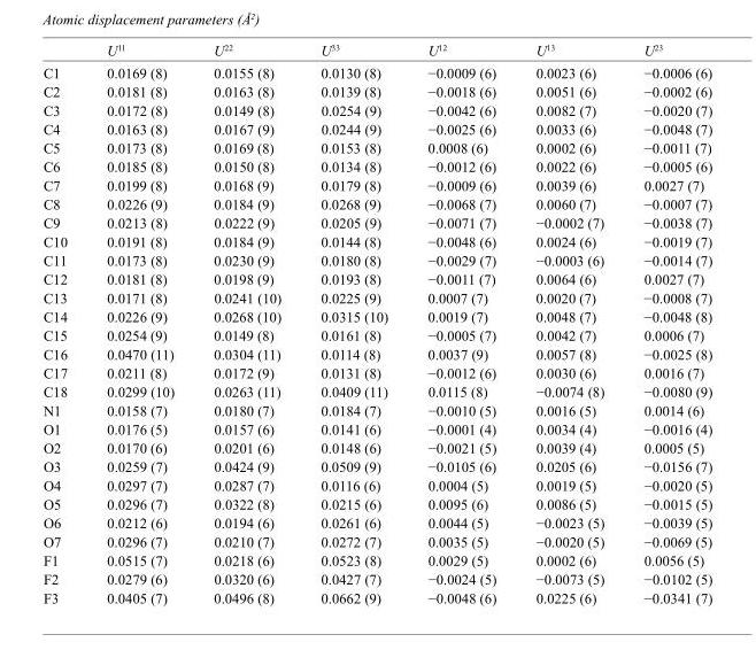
<table><thead><tr><td></td><td>U<sup>11</sup></td><td>U<sup>22</sup></td><td>U<sup>33</sup></td><td>U<sup>12</sup></td><td>U<sup>13</sup></td><td>U<sup>23</sup></td></tr></thead><tbody><tr><td>C1</td><td>0.0169 (8)</td><td>0.0155 (8)</td><td>0.0130 (8)</td><td>−0.0009 (6)</td><td>0.0023 (6)</td><td>−0.0006 (6)</td></tr><tr><td>C2</td><td>0.0181 (8)</td><td>0.0163 (8)</td><td>0.0139 (8)</td><td>−0.0018 (6)</td><td>0.0051 (6)</td><td>−0.0002 (6)</td></tr><tr><td>C3</td><td>0.0172 (8)</td><td>0.0149 (8)</td><td>0.0254 (9)</td><td>−0.0042 (6)</td><td>0.0082 (7)</td><td>−0.0020 (7)</td></tr><tr><td>C4</td><td>0.0163 (8)</td><td>0.0167 (9)</td><td>0.0244 (9)</td><td>−0.0025 (6)</td><td>0.0033 (6)</td><td>−0.0048 (7)</td></tr><tr><td>C5</td><td>0.0173 (8)</td><td>0.0169 (8)</td><td>0.0153 (8)</td><td>0.0008 (6)</td><td>0.0002 (6)</td><td>−0.0011 (7)</td></tr><tr><td>C6</td><td>0.0185 (8)</td><td>0.0150 (8)</td><td>0.0134 (8)</td><td>−0.0012 (6)</td><td>0.0022 (6)</td><td>−0.0005 (6)</td></tr><tr><td>C7</td><td>0.0199 (8)</td><td>0.0168 (9)</td><td>0.0179 (8)</td><td>−0.0009 (6)</td><td>0.0039 (6)</td><td>0.0027 (7)</td></tr><tr><td>C8</td><td>0.0226 (9)</td><td>0.0184 (9)</td><td>0.0268 (9)</td><td>−0.0068 (7)</td><td>0.0060 (7)</td><td>−0.0007 (7)</td></tr><tr><td>C9</td><td>0.0213 (8)</td><td>0.0222 (9)</td><td>0.0205 (9)</td><td>−0.0071 (7)</td><td>−0.0002 (7)</td><td>−0.0038 (7)</td></tr><tr><td>C10</td><td>0.0191 (8)</td><td>0.0184 (9)</td><td>0.0144 (8)</td><td>−0.0048 (6)</td><td>0.0024 (6)</td><td>−0.0019 (7)</td></tr><tr><td>C11</td><td>0.0173 (8)</td><td>0.0230 (9)</td><td>0.0180 (8)</td><td>−0.0029 (7)</td><td>−0.0003 (6)</td><td>−0.0014 (7)</td></tr><tr><td>C12</td><td>0.0181 (8)</td><td>0.0198 (9)</td><td>0.0193 (8)</td><td>−0.0011 (7)</td><td>0.0064 (6)</td><td>0.0027 (7)</td></tr><tr><td>C13</td><td>0.0171 (8)</td><td>0.0241 (10)</td><td>0.0225 (9)</td><td>0.0007 (7)</td><td>0.0020 (7)</td><td>−0.0008 (7)</td></tr><tr><td>C14</td><td>0.0226 (9)</td><td>0.0268 (10)</td><td>0.0315 (10)</td><td>0.0019 (7)</td><td>0.0048 (7)</td><td>−0.0048 (8)</td></tr><tr><td>C15</td><td>0.0254 (9)</td><td>0.0149 (8)</td><td>0.0161 (8)</td><td>−0.0005 (7)</td><td>0.0042 (7)</td><td>0.0006 (7)</td></tr><tr><td>C16</td><td>0.0470 (11)</td><td>0.0304 (11)</td><td>0.0114 (8)</td><td>0.0037 (9)</td><td>0.0057 (8)</td><td>−0.0025 (8)</td></tr><tr><td>C17</td><td>0.0211 (8)</td><td>0.0172 (9)</td><td>0.0131 (8)</td><td>−0.0012 (6)</td><td>0.0030 (6)</td><td>0.0016 (7)</td></tr><tr><td>C18</td><td>0.0299 (10)</td><td>0.0263 (11)</td><td>0.0409 (11)</td><td>0.0115 (8)</td><td>−0.0074 (8)</td><td>−0.0080 (9)</td></tr><tr><td>N1</td><td>0.0158 (7)</td><td>0.0180 (7)</td><td>0.0184 (7)</td><td>−0.0010 (5)</td><td>0.0016 (5)</td><td>0.0014 (6)</td></tr><tr><td>O1</td><td>0.0176 (5)</td><td>0.0157 (6)</td><td>0.0141 (6)</td><td>−0.0001 (4)</td><td>0.0034 (4)</td><td>−0.0016 (4)</td></tr><tr><td>O2</td><td>0.0170 (6)</td><td>0.0201 (6)</td><td>0.0148 (6)</td><td>−0.0021 (5)</td><td>0.0039 (4)</td><td>0.0005 (5)</td></tr><tr><td>O3</td><td>0.0259 (7)</td><td>0.0424 (9)</td><td>0.0509 (9)</td><td>−0.0105 (6)</td><td>0.0205 (6)</td><td>−0.0156 (7)</td></tr><tr><td>O4</td><td>0.0297 (7)</td><td>0.0287 (7)</td><td>0.0116 (6)</td><td>0.0004 (5)</td><td>0.0019 (5)</td><td>−0.0020 (5)</td></tr><tr><td>O5</td><td>0.0296 (7)</td><td>0.0322 (8)</td><td>0.0215 (6)</td><td>0.0095 (6)</td><td>0.0086 (5)</td><td>−0.0015 (5)</td></tr><tr><td>O6</td><td>0.0212 (6)</td><td>0.0194 (6)</td><td>0.0261 (6)</td><td>0.0044 (5)</td><td>−0.0023 (5)</td><td>−0.0039 (5)</td></tr><tr><td>O7</td><td>0.0296 (7)</td><td>0.0210 (7)</td><td>0.0272 (7)</td><td>0.0035 (5)</td><td>−0.0020 (5)</td><td>−0.0069 (5)</td></tr><tr><td>F1</td><td>0.0515 (7)</td><td>0.0218 (6)</td><td>0.0523 (8)</td><td>0.0029 (5)</td><td>0.0002 (6)</td><td>0.0056 (5)</td></tr><tr><td>F2</td><td>0.0279 (6)</td><td>0.0320 (6)</td><td>0.0427 (7)</td><td>−0.0024 (5)</td><td>−0.0073 (5)</td><td>−0.0102 (5)</td></tr><tr><td>F3</td><td>0.0405 (7)</td><td>0.0496 (8)</td><td>0.0662 (9)</td><td>−0.0048 (6)</td><td>0.0225 (6)</td><td>−0.0341 (7)</td></tr></tbody></table>